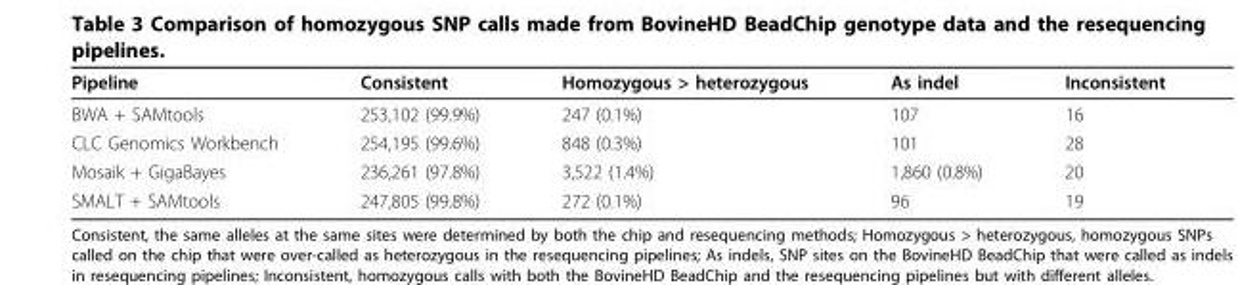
<table><thead><tr><td>Pipeline</td><td>Consistent</td><td>Homozygous &gt; heterozygous</td><td>As indel</td><td>Inconsistent</td></tr></thead><tbody><tr><td>BWA + SAMtools</td><td>253,102 (99.9%)</td><td>247 (0.1%)</td><td>107</td><td>16</td></tr><tr><td>CLC Genomics Workbench</td><td>254,195 (99.6%)</td><td>848 (0.3%)</td><td>101</td><td>28</td></tr><tr><td>Mosaik + GigaBayes</td><td>236,261 (97.8%)</td><td>3,522 (1.4%)</td><td>1,860 (0.8%)</td><td>20</td></tr><tr><td>SMALT + SAMtools</td><td>247,805 (99.8%)</td><td>272 (0.1%)</td><td>96</td><td>19</td></tr></tbody></table>